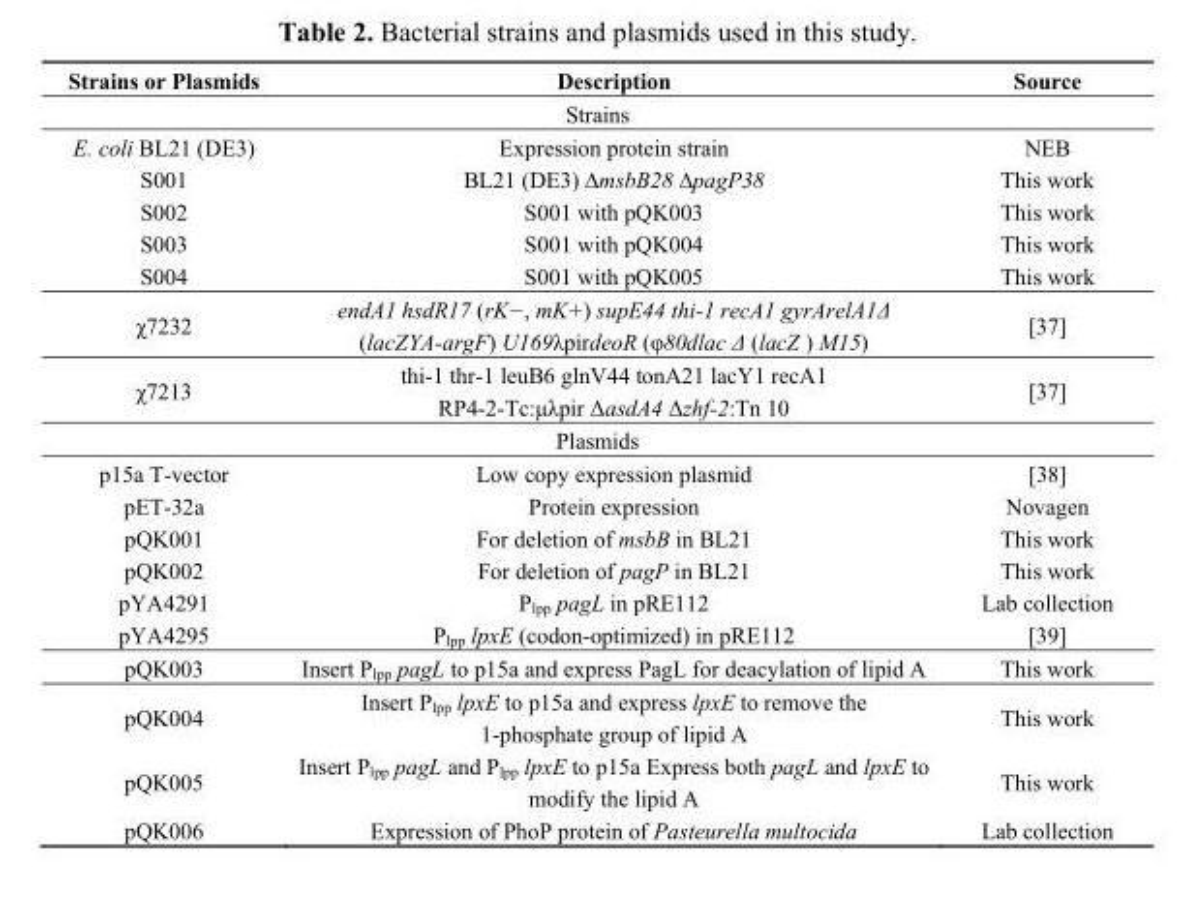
<table><thead><tr><td>Strains or Plasmids</td><td>Description</td><td>Source</td></tr></thead><tbody><tr><td colspan="3">Strains</td></tr><tr><td>E. coli BL21 (DE3)</td><td>Expression protein strain</td><td>NEB</td></tr><tr><td>S001</td><td>BL21 (DE3) ∆msbB28 ∆pagP38</td><td>This work</td></tr><tr><td>S002</td><td>S001 with pQK003</td><td>This work</td></tr><tr><td>S003</td><td>S001 with pQK004</td><td>This work</td></tr><tr><td>S004</td><td>S001 with pQK005</td><td>This work</td></tr><tr><td>χ7232</td><td>endA1 hsdR17 (rK−, mK+) supE44 thi-1 recA1 gyrArelA1Δ (lacZYA-argF) U169λpirdeoR (φ80dlac Δ (lacZ ) M15)</td><td>[37]</td></tr><tr><td>χ7213</td><td>thi-1 thr-1 leuB6 glnV44 tonA21 lacY1 recA1 RP4-2-Tc:μλpir ΔasdA4 Δzhf-2:Tn 10</td><td>[37]</td></tr><tr><td colspan="3">Plasmids</td></tr><tr><td>p15a T-vector</td><td>Low copy expression plasmid</td><td>[38]</td></tr><tr><td>pET-32a</td><td>Protein expression</td><td>Novagen</td></tr><tr><td>pQK001</td><td>For deletion of msbB in BL21</td><td>This work</td></tr><tr><td>pQK002</td><td>For deletion of pagP in BL21</td><td>This work</td></tr><tr><td>pYA4291</td><td>P<sub>lpp</sub> pagL in pRE112</td><td>Lab collection</td></tr><tr><td>pYA4295</td><td>P<sub>lpp</sub> lpxE (codon-optimized) in pRE112</td><td>[39]</td></tr><tr><td>pQK003</td><td>Insert P<sub>lpp</sub> pagL to p15a and express PagL for deacylation of lipid A</td><td>This work</td></tr><tr><td>pQK004</td><td>Insert P<sub>lpp</sub> lpxE to p15a and express lpxE to remove the 1-phosphate group of lipid A</td><td>This work</td></tr><tr><td>pQK005</td><td>Insert P<sub>lpp</sub> pagL and P<sub>lpp</sub> lpxE to p15a Express both pagL and lpxE to modify the lipid A</td><td>This work</td></tr><tr><td>pQK006</td><td>Expression of PhoP protein of Pasteurella multocida</td><td>Lab collection</td></tr></tbody></table>